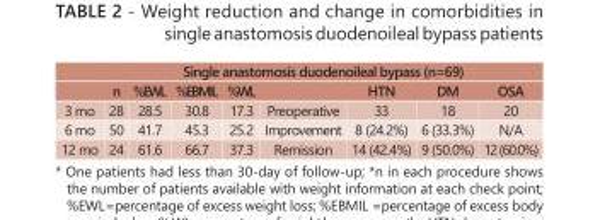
<table><thead><tr><td rowspan="2"></td><td colspan="8">Single anastomosis duodenoileal bypass (n=69)</td></tr><tr><td>n</td><td>%EWL</td><td>%EBMIL</td><td>%WL</td><td></td><td>HTN</td><td>DM</td><td>OSA</td></tr></thead><tbody><tr><td>3 mo</td><td>28</td><td>28.5</td><td>30.8</td><td>17.3</td><td>Preoperative</td><td>33</td><td>18</td><td>20</td></tr><tr><td>6 mo</td><td>50</td><td>41.7</td><td>45.3</td><td>25.2</td><td>Improvement</td><td>8 (24.2%)</td><td>6 (33.3%)</td><td>N/A</td></tr><tr><td>12 mo</td><td>24</td><td>61.6</td><td>66.7</td><td>37.3</td><td>Remission</td><td>14 (42.4%)</td><td>9 (50.0%)</td><td>12 (60.0%)</td></tr></tbody></table>